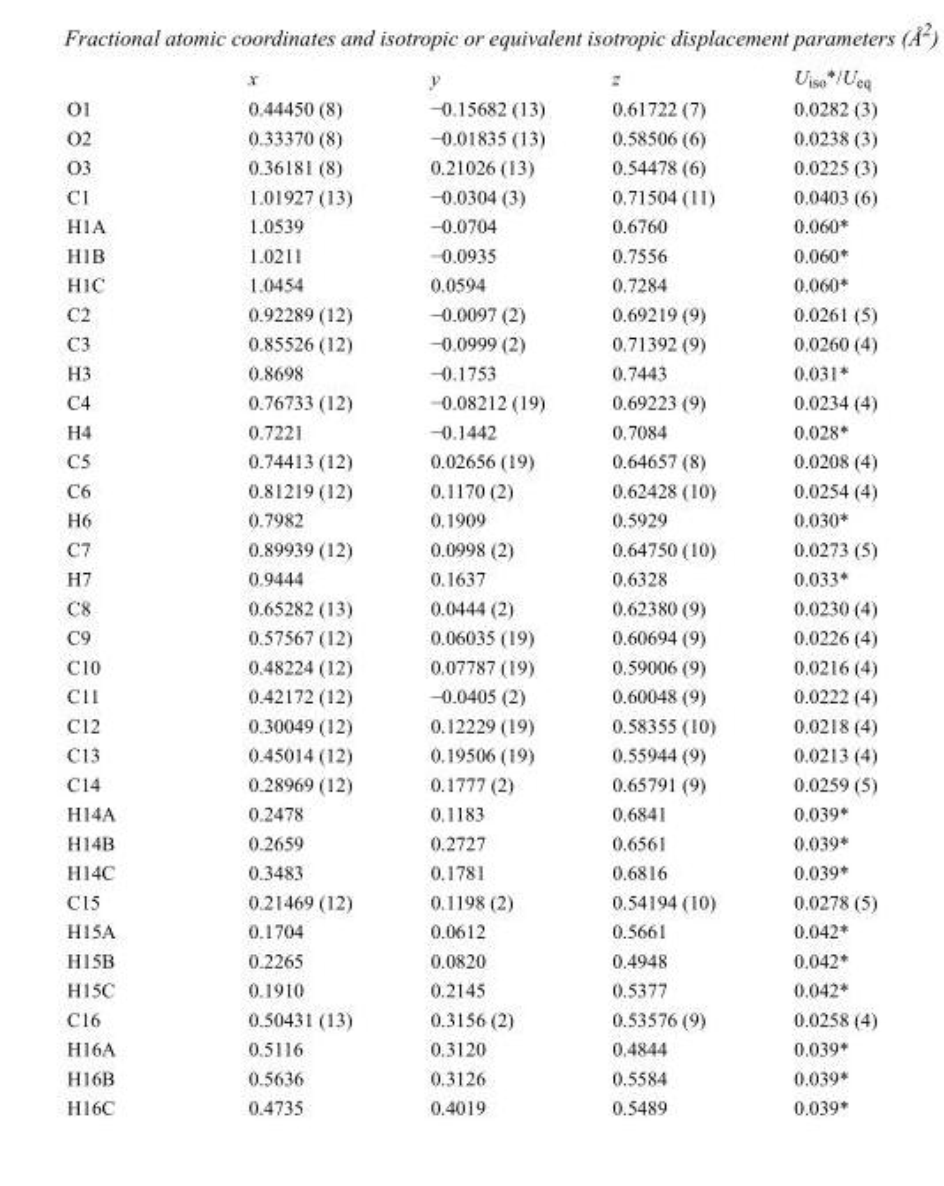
<table><thead><tr><td></td><td>x</td><td>y</td><td>z</td><td>U<sub>iso</sub>*/U<sub>eq</sub></td></tr></thead><tbody><tr><td>O1</td><td>0.44450 (8)</td><td>−0.15682 (13)</td><td>0.61722 (7)</td><td>0.0282 (3)</td></tr><tr><td>O2</td><td>0.33370 (8)</td><td>−0.01835 (13)</td><td>0.58506 (6)</td><td>0.0238 (3)</td></tr><tr><td>O3</td><td>0.36181 (8)</td><td>0.21026 (13)</td><td>0.54478 (6)</td><td>0.0225 (3)</td></tr><tr><td>C1</td><td>1.01927 (13)</td><td>−0.0304 (3)</td><td>0.71504 (11)</td><td>0.0403 (6)</td></tr><tr><td>H1A</td><td>1.0539</td><td>−0.0704</td><td>0.6760</td><td>0.060*</td></tr><tr><td>H1B</td><td>1.0211</td><td>−0.0935</td><td>0.7556</td><td>0.060*</td></tr><tr><td>H1C</td><td>1.0454</td><td>0.0594</td><td>0.7284</td><td>0.060*</td></tr><tr><td>C2</td><td>0.92289 (12)</td><td>−0.0097 (2)</td><td>0.69219 (9)</td><td>0.0261 (5)</td></tr><tr><td>C3</td><td>0.85526 (12)</td><td>−0.0999 (2)</td><td>0.71392 (9)</td><td>0.0260 (4)</td></tr><tr><td>H3</td><td>0.8698</td><td>−0.1753</td><td>0.7443</td><td>0.031*</td></tr><tr><td>C4</td><td>0.76733 (12)</td><td>−0.08212 (19)</td><td>0.69223 (9)</td><td>0.0234 (4)</td></tr><tr><td>H4</td><td>0.7221</td><td>−0.1442</td><td>0.7084</td><td>0.028*</td></tr><tr><td>C5</td><td>0.74413 (12)</td><td>0.02656 (19)</td><td>0.64657 (8)</td><td>0.0208 (4)</td></tr><tr><td>C6</td><td>0.81219 (12)</td><td>0.1170 (2)</td><td>0.62428 (10)</td><td>0.0254 (4)</td></tr><tr><td>H6</td><td>0.7982</td><td>0.1909</td><td>0.5929</td><td>0.030*</td></tr><tr><td>C7</td><td>0.89939 (12)</td><td>0.0998 (2)</td><td>0.64750 (10)</td><td>0.0273 (5)</td></tr><tr><td>H7</td><td>0.9444</td><td>0.1637</td><td>0.6328</td><td>0.033*</td></tr><tr><td>C8</td><td>0.65282 (13)</td><td>0.0444 (2)</td><td>0.62380 (9)</td><td>0.0230 (4)</td></tr><tr><td>C9</td><td>0.57567 (12)</td><td>0.06035 (19)</td><td>0.60694 (9)</td><td>0.0226 (4)</td></tr><tr><td>C10</td><td>0.48224 (12)</td><td>0.07787 (19)</td><td>0.59006 (9)</td><td>0.0216 (4)</td></tr><tr><td>C11</td><td>0.42172 (12)</td><td>−0.0405 (2)</td><td>0.60048 (9)</td><td>0.0222 (4)</td></tr><tr><td>C12</td><td>0.30049 (12)</td><td>0.12229 (19)</td><td>0.58355 (10)</td><td>0.0218 (4)</td></tr><tr><td>C13</td><td>0.45014 (12)</td><td>0.19506 (19)</td><td>0.55944 (9)</td><td>0.0213 (4)</td></tr><tr><td>C14</td><td>0.28969 (12)</td><td>0.1777 (2)</td><td>0.65791 (9)</td><td>0.0259 (5)</td></tr><tr><td>H14A</td><td>0.2478</td><td>0.1183</td><td>0.6841</td><td>0.039*</td></tr><tr><td>H14B</td><td>0.2659</td><td>0.2727</td><td>0.6561</td><td>0.039*</td></tr><tr><td>H14C</td><td>0.3483</td><td>0.1781</td><td>0.6816</td><td>0.039*</td></tr><tr><td>C15</td><td>0.21469 (12)</td><td>0.1198 (2)</td><td>0.54194 (10)</td><td>0.0278 (5)</td></tr><tr><td>H15A</td><td>0.1704</td><td>0.0612</td><td>0.5661</td><td>0.042*</td></tr><tr><td>H15B</td><td>0.2265</td><td>0.0820</td><td>0.4948</td><td>0.042*</td></tr><tr><td>H15C</td><td>0.1910</td><td>0.2145</td><td>0.5377</td><td>0.042*</td></tr><tr><td>C16</td><td>0.50431 (13)</td><td>0.3156 (2)</td><td>0.53576 (9)</td><td>0.0258 (4)</td></tr><tr><td>H16A</td><td>0.5116</td><td>0.3120</td><td>0.4844</td><td>0.039*</td></tr><tr><td>H16B</td><td>0.5636</td><td>0.3126</td><td>0.5584</td><td>0.039*</td></tr><tr><td>H16C</td><td>0.4735</td><td>0.4019</td><td>0.5489</td><td>0.039*</td></tr></tbody></table>